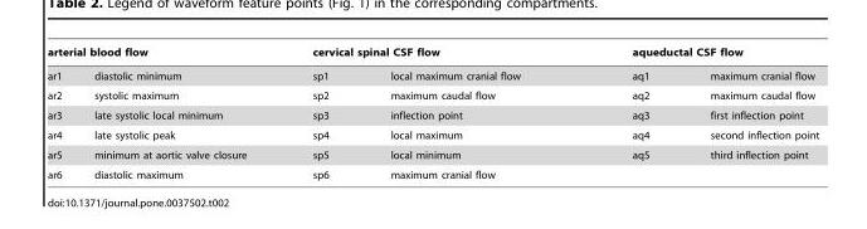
<table><thead><tr><td colspan="2">arterial blood flow</td><td colspan="2">cervical spinal CSF flow</td><td colspan="2">aqueductal CSF flow</td></tr><tr><td>ar1</td><td>diastolic minimum</td><td>sp1</td><td>local maximum cranial flow</td><td>aq1</td><td>maximum cranial flow</td></tr></thead><tbody><tr><td>ar2</td><td>systolic maximum</td><td>sp2</td><td>maximum caudal flow</td><td>aq2</td><td>maximum caudal flow</td></tr><tr><td>ar3</td><td>late systolic local minimum</td><td>sp3</td><td>inflection point</td><td>aq3</td><td>first inflection point</td></tr><tr><td>ar4</td><td>late systolic peak</td><td>sp4</td><td>local maximum</td><td>aq4</td><td>second inflection point</td></tr><tr><td>ar5</td><td>minimum at aortic valve closure</td><td>sp5</td><td>local minimum</td><td>aq5</td><td>third inflection point</td></tr><tr><td>ar6</td><td>diastolic maximum</td><td>sp6</td><td>maximum cranial flow</td><td></td><td></td></tr></tbody></table>